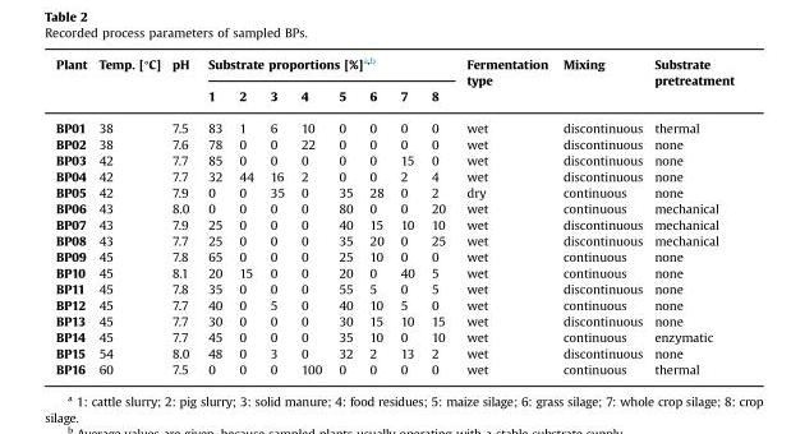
<table><thead><tr><td rowspan="2">Plant</td><td rowspan="2">Temp. [°C]</td><td rowspan="2">pH</td><td colspan="8">Substrate proportions [%]<sup>a,b</sup></td><td rowspan="2">Fermentation type</td><td rowspan="2">Mixing</td><td rowspan="2">Substrate pretreatment</td></tr><tr><td>1</td><td>2</td><td>3</td><td>4</td><td>5</td><td>6</td><td>7</td><td>8</td></tr></thead><tbody><tr><td>BP01</td><td>38</td><td>7.5</td><td>83</td><td>1</td><td>6</td><td>10</td><td>0</td><td>0</td><td>0</td><td>0</td><td>wet</td><td>discontinuous</td><td>thermal</td></tr><tr><td>BP02</td><td>38</td><td>7.6</td><td>78</td><td>0</td><td>0</td><td>22</td><td>0</td><td>0</td><td>0</td><td>0</td><td>wet</td><td>discontinuous</td><td>none</td></tr><tr><td>BP03</td><td>42</td><td>7.7</td><td>85</td><td>0</td><td>0</td><td>0</td><td>0</td><td>0</td><td>15</td><td>0</td><td>wet</td><td>discontinuous</td><td>none</td></tr><tr><td>BP04</td><td>42</td><td>7.7</td><td>32</td><td>44</td><td>16</td><td>2</td><td>0</td><td>0</td><td>2</td><td>4</td><td>wet</td><td>discontinuous</td><td>none</td></tr><tr><td>BP05</td><td>42</td><td>7.9</td><td>0</td><td>0</td><td>35</td><td>0</td><td>35</td><td>28</td><td>0</td><td>2</td><td>dry</td><td>continuous</td><td>none</td></tr><tr><td>BP06</td><td>43</td><td>8.0</td><td>0</td><td>0</td><td>0</td><td>0</td><td>80</td><td>0</td><td>0</td><td>20</td><td>wet</td><td>continuous</td><td>mechanical</td></tr><tr><td>BP07</td><td>43</td><td>7.9</td><td>25</td><td>0</td><td>0</td><td>0</td><td>40</td><td>15</td><td>10</td><td>10</td><td>wet</td><td>discontinuous</td><td>mechanical</td></tr><tr><td>BP08</td><td>43</td><td>7.7</td><td>25</td><td>0</td><td>0</td><td>0</td><td>35</td><td>20</td><td>0</td><td>25</td><td>wet</td><td>discontinuous</td><td>mechanical</td></tr><tr><td>BP09</td><td>45</td><td>7.8</td><td>65</td><td>0</td><td>0</td><td>0</td><td>25</td><td>10</td><td>0</td><td>0</td><td>wet</td><td>continuous</td><td>none</td></tr><tr><td>BP10</td><td>45</td><td>8.1</td><td>20</td><td>15</td><td>0</td><td>0</td><td>20</td><td>0</td><td>40</td><td>5</td><td>wet</td><td>continuous</td><td>none</td></tr><tr><td>BP11</td><td>45</td><td>7.8</td><td>35</td><td>0</td><td>0</td><td>0</td><td>55</td><td>5</td><td>0</td><td>5</td><td>wet</td><td>discontinuous</td><td>none</td></tr><tr><td>BP12</td><td>45</td><td>7.7</td><td>40</td><td>0</td><td>5</td><td>0</td><td>40</td><td>10</td><td>5</td><td>0</td><td>wet</td><td>continuous</td><td>none</td></tr><tr><td>BP13</td><td>45</td><td>7.7</td><td>30</td><td>0</td><td>0</td><td>0</td><td>30</td><td>15</td><td>10</td><td>15</td><td>wet</td><td>discontinuous</td><td>none</td></tr><tr><td>BP14</td><td>45</td><td>7.7</td><td>45</td><td>0</td><td>0</td><td>0</td><td>35</td><td>10</td><td>0</td><td>10</td><td>wet</td><td>continuous</td><td>enzymatic</td></tr><tr><td>BP15</td><td>54</td><td>8.0</td><td>48</td><td>0</td><td>3</td><td>0</td><td>32</td><td>2</td><td>13</td><td>2</td><td>wet</td><td>discontinuous</td><td>none</td></tr><tr><td>BP16</td><td>60</td><td>7.5</td><td>0</td><td>0</td><td>0</td><td>100</td><td>0</td><td>0</td><td>0</td><td>0</td><td>wet</td><td>continuous</td><td>thermal</td></tr></tbody></table>